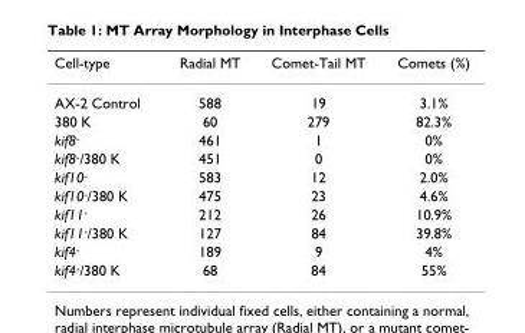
<table><thead><tr><td>Cell-type</td><td>Radial MT</td><td>Comet-Tail MT</td><td>Comets (%)</td></tr></thead><tbody><tr><td>AX-2 Control</td><td>588</td><td>19</td><td>3.1%</td></tr><tr><td>380 K</td><td>60</td><td>279</td><td>82.3%</td></tr><tr><td>kif8<sup>-</sup></td><td>461</td><td>1</td><td>0%</td></tr><tr><td>kif8<sup>-</sup>/380 K</td><td>451</td><td>0</td><td>0%</td></tr><tr><td>kif10<sup>-</sup></td><td>583</td><td>12</td><td>2.0%</td></tr><tr><td>kif10<sup>-</sup>/380 K</td><td>475</td><td>23</td><td>4.6%</td></tr><tr><td>kif11<sup>-</sup></td><td>212</td><td>26</td><td>10.9%</td></tr><tr><td>kif11<sup>-</sup>/380 K</td><td>127</td><td>84</td><td>39.8%</td></tr><tr><td>kif4<sup>-</sup></td><td>189</td><td>9</td><td>4%</td></tr><tr><td>kif4<sup>-</sup>/380 K</td><td>68</td><td>84</td><td>55%</td></tr></tbody></table>